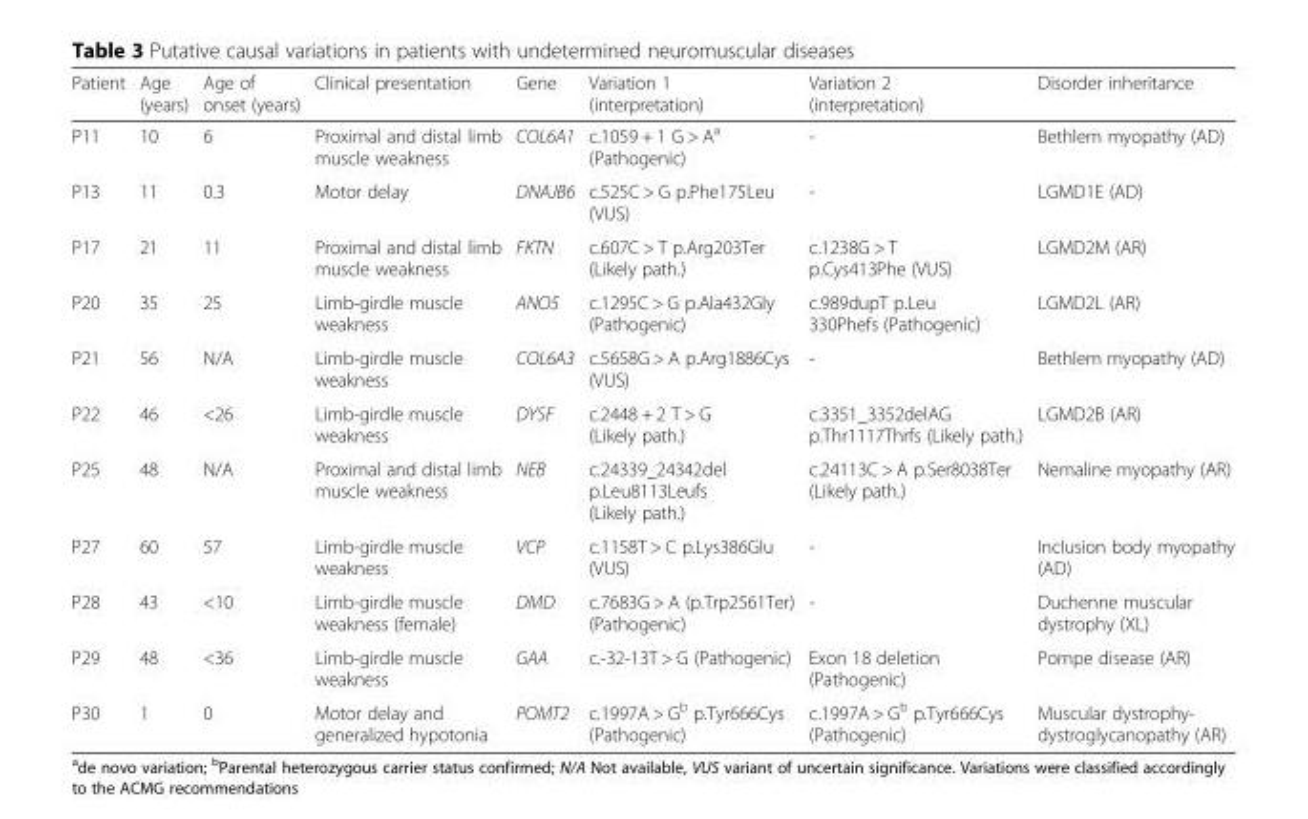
<table><thead><tr><td>Patient</td><td>Age (years)</td><td>Age of onset (years)</td><td>Clinical presentation</td><td>Gene</td><td>Variation 1 (interpretation)</td><td>Variation 2 (interpretation)</td><td>Disorder inheritance</td></tr></thead><tbody><tr><td>P11</td><td>10</td><td>6</td><td>Proximal and distal limb muscle weakness</td><td>COL6A1</td><td>c.1059 + 1 G &gt; A<sup>a</sup> (Pathogenic)</td><td>-</td><td>Bethlem myopathy (AD)</td></tr><tr><td>P13</td><td>11</td><td>0.3</td><td>Motor delay</td><td>DNAJB6</td><td>c.525C &gt; G p.Phe175Leu (VUS)</td><td>-</td><td>LGMD1E (AD)</td></tr><tr><td>P17</td><td>21</td><td>11</td><td>Proximal and distal limb muscle weakness</td><td>FKTN</td><td>c.607C &gt; T p.Arg203Ter (Likely path.)</td><td>c.1238G &gt; T p.Cys413Phe (VUS)</td><td>LGMD2M (AR)</td></tr><tr><td>P20</td><td>35</td><td>25</td><td>Limb-girdle muscle weakness</td><td>ANO5</td><td>c.1295C &gt; G p.Ala432Gly (Pathogenic)</td><td>c.989dupT p.Leu 330Phefs (Pathogenic)</td><td>LGMD2L (AR)</td></tr><tr><td>P21</td><td>56</td><td>N/A</td><td>Limb-girdle muscle weakness</td><td>COL6A3</td><td>c.5658G &gt; A p.Arg1886Cys (VUS)</td><td>-</td><td>Bethlem myopathy (AD)</td></tr><tr><td>P22</td><td>46</td><td>&lt;26</td><td>Limb-girdle muscle weakness</td><td>DYSF</td><td>c.2448 + 2 T &gt; G (Likely path.)</td><td>c.3351_3352delAG p.Thr1117Thrfs (Likely path.)</td><td>LGMD2B (AR)</td></tr><tr><td>P25</td><td>48</td><td>N/A</td><td>Proximal and distal limb muscle weakness</td><td>NEB</td><td>c.24339_24342del p.Leu8113Leufs (Likely path.)</td><td>c.24113C &gt; A p.Ser8038Ter (Likely path.)</td><td>Nemaline myopathy (AR)</td></tr><tr><td>P27</td><td>60</td><td>57</td><td>Limb-girdle muscle weakness</td><td>VCP</td><td>c.1158T &gt; C p.Lys386Glu (VUS)</td><td>-</td><td>Inclusion body myopathy (AD)</td></tr><tr><td>P28</td><td>43</td><td>&lt;10</td><td>Limb-girdle muscle weakness (female)</td><td>DMD</td><td>c.7683G &gt; A (p.Trp2561Ter) (Pathogenic)</td><td>-</td><td>Duchenne muscular dystrophy (XL)</td></tr><tr><td>P29</td><td>48</td><td>&lt;36</td><td>Limb-girdle muscle weakness</td><td>GAA</td><td>c.-32-13T &gt; G (Pathogenic)</td><td>Exon 18 deletion (Pathogenic)</td><td>Pompe disease (AR)</td></tr><tr><td>P30</td><td>1</td><td>0</td><td>Motor delay and generalized hypotonia</td><td>POMT2</td><td>c.1997A &gt; G<sup>b</sup> p.Tyr666Cys (Pathogenic)</td><td>c.1997A &gt; G<sup>b</sup> p.Tyr666Cys (Pathogenic)</td><td>Muscular dystrophy- dystroglycanopathy (AR)</td></tr></tbody></table>